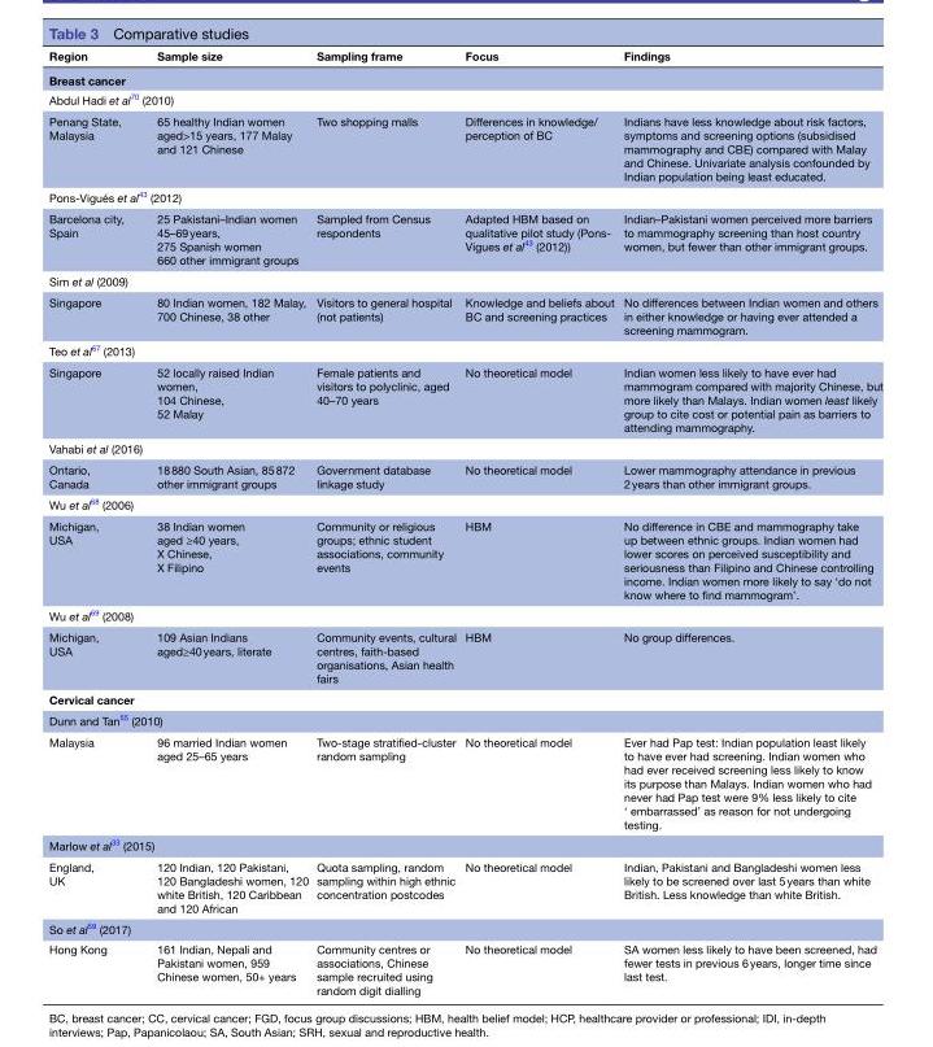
<table><thead><tr><td>Region</td><td>Sample size</td><td>Sampling frame</td><td>Focus</td><td>Findings</td></tr></thead><tbody><tr><td colspan="5">Breast cancer</td></tr><tr><td colspan="5">Abdul Hadi et al70 (2010)</td></tr><tr><td>Penang State, Malaysia</td><td>65 healthy Indian women aged&gt;15 years, 177 Malay and 121 Chinese</td><td>Two shopping malls</td><td>Differences in knowledge/ perception of BC</td><td>Indians have less knowledge about risk factors, symptoms and screening options (subsidised mammography and CBE) compared with Malay and Chinese. Univariate analysis confounded by Indian population being least educated.</td></tr><tr><td colspan="5">Pons-Vigués et al43 (2012)</td></tr><tr><td>Barcelona city, Spain</td><td>25 Pakistani–Indian women 45–69 years, 275 Spanish women 660 other immigrant groups</td><td>Sampled from Census respondents</td><td>Adapted HBM based on qualitative pilot study (Pons- Vigues et al43 (2012))</td><td>Indian–Pakistani women perceived more barriers to mammography screening than host country women, but fewer than other immigrant groups.</td></tr><tr><td colspan="5">Sim et al (2009)</td></tr><tr><td>Singapore</td><td>80 Indian women, 182 Malay, 700 Chinese, 38 other</td><td>Visitors to general hospital (not patients)</td><td>Knowledge and beliefs about BC and screening practices</td><td>No differences between Indian women and others in either knowledge or having ever attended a screening mammogram.</td></tr><tr><td colspan="5">Teo et al67 (2013)</td></tr><tr><td>Singapore</td><td>52 locally raised Indian women, 104 Chinese, 52 Malay</td><td>Female patients and visitors to polyclinic, aged 40–70 years</td><td>No theoretical model</td><td>Indian women less likely to have ever had mammogram compared with majority Chinese, but more likely than Malays. Indian women least likely group to cite cost or potential pain as barriers to attending mammography.</td></tr><tr><td colspan="5">Vahabi et al (2016)</td></tr><tr><td>Ontario, Canada</td><td>18 880 South Asian, 85 872 other immigrant groups</td><td>Government database linkage study</td><td>No theoretical model</td><td>Lower mammography attendance in previous 2 years than other immigrant groups.</td></tr><tr><td colspan="5">Wu et al68 (2006)</td></tr><tr><td>Michigan, USA</td><td>38 Indian women aged ≥40 years, X Chinese, X Filipino</td><td>Community or religious groups; ethnic student associations, community events</td><td>HBM</td><td>No difference in CBE and mammography take up between ethnic groups. Indian women had lower scores on perceived susceptibility and seriousness than Filipino and Chinese controlling income. Indian women more likely to say ‘do not know where to find mammogram’.</td></tr><tr><td colspan="5">Wu et al69 (2008)</td></tr><tr><td>Michigan, USA</td><td>109 Asian Indians aged≥40 years, literate</td><td>Community events, cultural centres, faith-based organisations, Asian health fairs</td><td>HBM</td><td>No group differences.</td></tr><tr><td colspan="5">Cervical cancer</td></tr><tr><td colspan="5">Dunn and Tan<sup>55</sup> (2010)</td></tr><tr><td>Malaysia</td><td>96 married Indian women aged 25–65 years</td><td>Two-stage stratified-cluster random sampling</td><td>No theoretical model</td><td>Ever had Pap test: Indian population least likely to have ever had screening. Indian women who had ever received screening less likely to know its purpose than Malays. Indian women who had never had Pap test were 9% less likely to cite ‘ embarrassed’ as reason for not undergoing testing.</td></tr><tr><td colspan="5">Marlow et al33 (2015)</td></tr><tr><td>England, UK</td><td>120 Indian, 120 Pakistani, 120 Bangladeshi women, 120 white British, 120 Caribbean and 120 African</td><td>Quota sampling, random sampling within high ethnic concentration postcodes</td><td>No theoretical model</td><td>Indian, Pakistani and Bangladeshi women less likely to be screened over last 5 years than white British. Less knowledge than white British.</td></tr><tr><td colspan="5">So et al59 (2017)</td></tr><tr><td>Hong Kong</td><td>161 Indian, Nepali and Pakistani women, 959 Chinese women, 50+ years</td><td>Community centres or associations, Chinese sample recruited using random digit dialling</td><td>No theoretical model</td><td>SA women less likely to have been screened, had fewer tests in previous 6 years, longer time since last test.</td></tr></tbody></table>